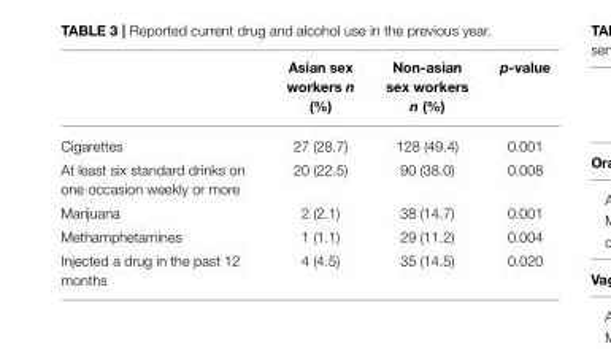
<table><thead><tr><td></td><td>Asian sex workers n (%)</td><td>Non-asian sex workers n (%)</td><td>p-value</td></tr></thead><tbody><tr><td>Cigarettes</td><td>27 (28.7)</td><td>128 (49.4)</td><td>0.001</td></tr><tr><td>At least six standard drinks on one occasion weekly or more</td><td>20 (22.5)</td><td>90 (38.0)</td><td>0.008</td></tr><tr><td>Marijuana</td><td>2 (2.1)</td><td>38 (14.7)</td><td>0.001</td></tr><tr><td>Methamphetamines</td><td>1 (1.1)</td><td>29 (11.2)</td><td>0.004</td></tr><tr><td>Injected a drug in the past 12 months</td><td>4 (4.5)</td><td>35 (14.5)</td><td>0.020</td></tr></tbody></table>